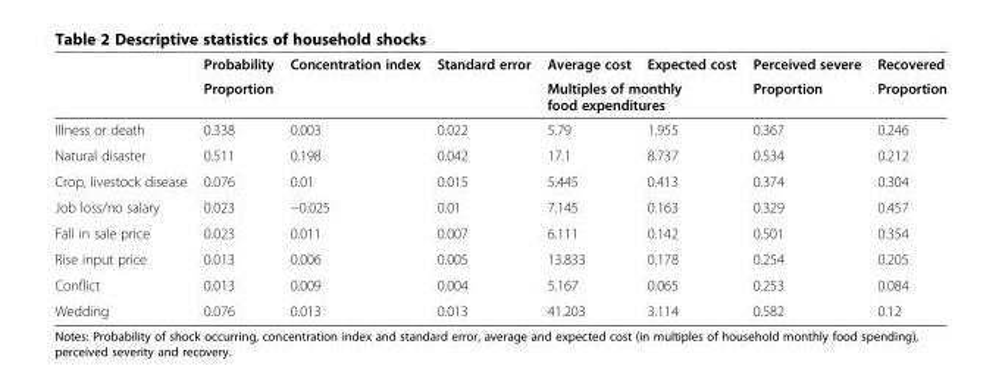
<table><thead><tr><td rowspan="2"></td><td rowspan="2">Probability Proportion</td><td rowspan="2">Concentration index</td><td rowspan="2">Standard error</td><td>Average cost</td><td>Expected cost</td><td rowspan="2">Perceived severe Proportion</td><td rowspan="2">Recovered Proportion</td></tr><tr><td colspan="2">Multiples of monthly food expenditures</td></tr></thead><tbody><tr><td>Illness or death</td><td>0.338</td><td>0.003</td><td>0.022</td><td>5.79</td><td>1.955</td><td>0.367</td><td>0.246</td></tr><tr><td>Natural disaster</td><td>0.511</td><td>0.198</td><td>0.042</td><td>17.1</td><td>8.737</td><td>0.534</td><td>0.212</td></tr><tr><td>Crop, livestock disease</td><td>0.076</td><td>0.01</td><td>0.015</td><td>5.445</td><td>0.413</td><td>0.374</td><td>0.304</td></tr><tr><td>Job loss/no salary</td><td>0.023</td><td>−0.025</td><td>0.01</td><td>7.145</td><td>0.163</td><td>0.329</td><td>0.457</td></tr><tr><td>Fall in sale price</td><td>0.023</td><td>0.011</td><td>0.007</td><td>6.111</td><td>0.142</td><td>0.501</td><td>0.354</td></tr><tr><td>Rise input price</td><td>0.013</td><td>0.006</td><td>0.005</td><td>13.833</td><td>0.178</td><td>0.254</td><td>0.205</td></tr><tr><td>Conflict</td><td>0.013</td><td>0.009</td><td>0.004</td><td>5.167</td><td>0.065</td><td>0.253</td><td>0.084</td></tr><tr><td>Wedding</td><td>0.076</td><td>0.013</td><td>0.013</td><td>41.203</td><td>3.114</td><td>0.582</td><td>0.12</td></tr></tbody></table>